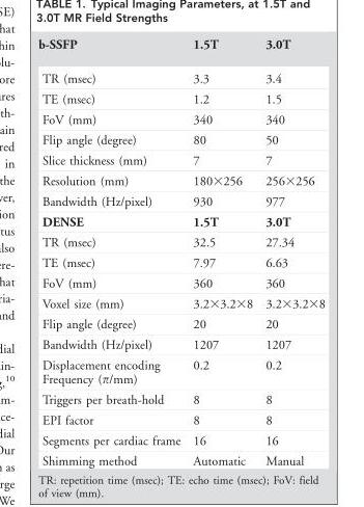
<table><thead><tr><td>b-SSFP</td><td>1.5T</td><td>3.0T</td></tr></thead><tbody><tr><td>TR (msec)</td><td>3.3</td><td>3.4</td></tr><tr><td>TE (msec)</td><td>1.2</td><td>1.5</td></tr><tr><td>FoV (mm)</td><td>340</td><td>340</td></tr><tr><td>Flip angle (degree)</td><td>80</td><td>50</td></tr><tr><td>Slice thickness (mm)</td><td>7</td><td>7</td></tr><tr><td>Resolution (mm)</td><td>180×256</td><td>256×256</td></tr><tr><td>Bandwidth (Hz/pixel)</td><td>930</td><td>977</td></tr><tr><td>DENSE</td><td>1.5T</td><td>3.0T</td></tr><tr><td>TR (msec)</td><td>32.5</td><td>27.34</td></tr><tr><td>TE (msec)</td><td>7.97</td><td>6.63</td></tr><tr><td>FoV (mm)</td><td>360</td><td>360</td></tr><tr><td>Voxel size (mm)</td><td>3.2×3.2×8</td><td>3.2×3.2×8</td></tr><tr><td>Flip angle (degree)</td><td>20</td><td>20</td></tr><tr><td>Bandwidth (Hz/pixel)</td><td>1207</td><td>1207</td></tr><tr><td>Displacement encoding Frequency (π/mm)</td><td>0.2</td><td>0.2</td></tr><tr><td>Triggers per breath-hold</td><td>8</td><td>8</td></tr><tr><td>EPI factor</td><td>8</td><td>8</td></tr><tr><td>Segments per cardiac frame</td><td>16</td><td>16</td></tr><tr><td>Shimming method</td><td>Automatic</td><td>Manual</td></tr></tbody></table>